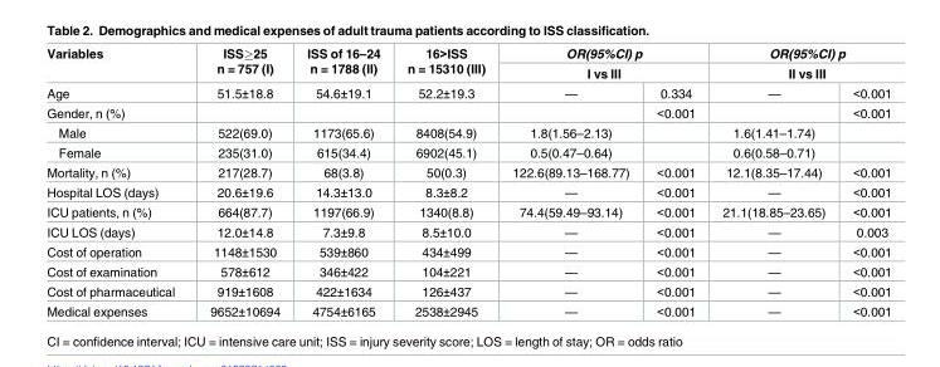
<table><thead><tr><td rowspan="3">Variables Age</td><td rowspan="3">ISS≥25 n = 757 (I) 51.5±18.8</td><td rowspan="3">ISS of 16–24 n = 1788 (II) 54.6±19.1</td><td rowspan="3">16&gt;ISS n = 15310 (III) 52.2±19.3</td><td rowspan="2" colspan="2">OR(95%CI) p I vs III</td><td rowspan="2" colspan="2">OR(95%CI) p II vs III</td></tr><tr></tr><tr><td>—</td><td>0.334</td><td>—</td><td>&lt;0.001</td></tr></thead><tbody><tr><td>Gender, n (%)</td><td></td><td></td><td></td><td></td><td>&lt;0.001</td><td></td><td>&lt;0.001</td></tr><tr><td>Male</td><td>522(69.0)</td><td>1173(65.6)</td><td>8408(54.9)</td><td>1.8(1.56–2.13)</td><td></td><td>1.6(1.41–1.74)</td><td></td></tr><tr><td>Female</td><td>235(31.0)</td><td>615(34.4)</td><td>6902(45.1)</td><td>0.5(0.47–0.64)</td><td></td><td>0.6(0.58–0.71)</td><td></td></tr><tr><td>Mortality, n (%)</td><td>217(28.7)</td><td>68(3.8)</td><td>50(0.3)</td><td>122.6(89.13–168.77)</td><td>&lt;0.001</td><td>12.1(8.35–17.44)</td><td>&lt;0.001</td></tr><tr><td>Hospital LOS (days)</td><td>20.6±19.6</td><td>14.3±13.0</td><td>8.3±8.2</td><td>—</td><td>&lt;0.001</td><td>—</td><td>&lt;0.001</td></tr><tr><td>ICU patients, n (%)</td><td>664(87.7)</td><td>1197(66.9)</td><td>1340(8.8)</td><td>74.4(59.49–93.14)</td><td>&lt;0.001</td><td>21.1(18.85–23.65)</td><td>&lt;0.001</td></tr><tr><td>ICU LOS (days)</td><td>12.0±14.8</td><td>7.3±9.8</td><td>8.5±10.0</td><td>—</td><td>&lt;0.001</td><td>—</td><td>0.003</td></tr><tr><td>Cost of operation</td><td>1148±1530</td><td>539±860</td><td>434±499</td><td>—</td><td>&lt;0.001</td><td>—</td><td>&lt;0.001</td></tr><tr><td>Cost of examination</td><td>578±612</td><td>346±422</td><td>104±221</td><td>—</td><td>&lt;0.001</td><td>—</td><td>&lt;0.001</td></tr><tr><td>Cost of pharmaceutical</td><td>919±1608</td><td>422±1634</td><td>126±437</td><td>—</td><td>&lt;0.001</td><td>—</td><td>&lt;0.001</td></tr><tr><td>Medical expenses</td><td>9652±10694</td><td>4754±6165</td><td>2538±2945</td><td>—</td><td>&lt;0.001</td><td>—</td><td>&lt;0.001</td></tr></tbody></table>